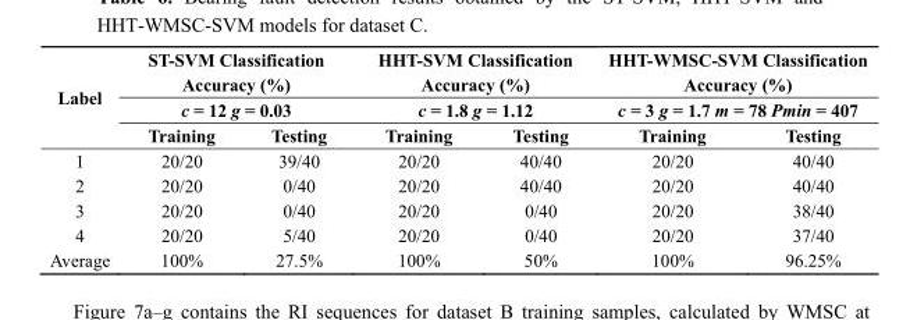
<table><thead><tr><td rowspan="3">Label</td><td rowspan="2" colspan="2">ST-SVM Classification Accuracy (%) c = 12 g = 0.03</td><td rowspan="2" colspan="2">HHT-SVM Classification Accuracy (%) c = 1.8 g = 1.12</td><td rowspan="2" colspan="2">HHT-WMSC-SVM Classification Accuracy (%) c = 3 g = 1.7 m = 78 Pmin = 407</td></tr><tr></tr><tr><td>Training</td><td>Testing</td><td>Training</td><td>Testing</td><td>Training</td><td>Testing</td></tr></thead><tbody><tr><td>1</td><td>20/20</td><td>39/40</td><td>20/20</td><td>40/40</td><td>20/20</td><td>40/40</td></tr><tr><td>2</td><td>20/20</td><td>0/40</td><td>20/20</td><td>40/40</td><td>20/20</td><td>40/40</td></tr><tr><td>3</td><td>20/20</td><td>0/40</td><td>20/20</td><td>0/40</td><td>20/20</td><td>38/40</td></tr><tr><td>4</td><td>20/20</td><td>5/40</td><td>20/20</td><td>0/40</td><td>20/20</td><td>37/40</td></tr><tr><td>Average</td><td>100%</td><td>27.5%</td><td>100%</td><td>50%</td><td>100%</td><td>96.25%</td></tr></tbody></table>